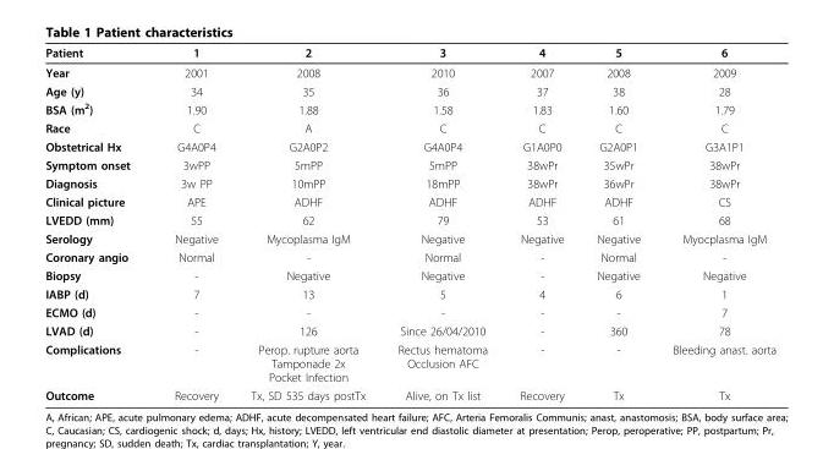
<table><thead><tr><td>Patient</td><td>1</td><td>2</td><td>3</td><td>4</td><td>5</td><td>6</td></tr></thead><tbody><tr><td>Year</td><td>2001</td><td>2008</td><td>2010</td><td>2007</td><td>2008</td><td>2009</td></tr><tr><td>Age (y)</td><td>34</td><td>35</td><td>36</td><td>37</td><td>38</td><td>28</td></tr><tr><td>BSA (m<sup>2</sup>)</td><td>1.90</td><td>1.88</td><td>1.58</td><td>1.83</td><td>1.60</td><td>1.79</td></tr><tr><td>Race</td><td>C</td><td>A</td><td>C</td><td>C</td><td>C</td><td>C</td></tr><tr><td>Obstetrical Hx</td><td>G4A0P4</td><td>G2A0P2</td><td>G4A0P4</td><td>G1A0P0</td><td>G2A0P1</td><td>G3A1P1</td></tr><tr><td>Symptom onset</td><td>3wPP</td><td>5mPP</td><td>5mPP</td><td>38wPr</td><td>35wPr</td><td>38wPr</td></tr><tr><td>Diagnosis</td><td>3w PP</td><td>10mPP</td><td>18mPP</td><td>38wPr</td><td>36wPr</td><td>38wPr</td></tr><tr><td>Clinical picture</td><td>APE</td><td>ADHF</td><td>ADHF</td><td>ADHF</td><td>ADHF</td><td>CS</td></tr><tr><td>LVEDD (mm)</td><td>55</td><td>62</td><td>79</td><td>53</td><td>61</td><td>68</td></tr><tr><td>Serology</td><td>Negative</td><td>Mycoplasma IgM</td><td>Negative</td><td>Negative</td><td>Negative</td><td>Myocplasma IgM</td></tr><tr><td>Coronary angio</td><td>Normal</td><td>-</td><td>Normal</td><td>-</td><td>Normal</td><td>-</td></tr><tr><td>Biopsy</td><td>-</td><td>Negative</td><td>Negative</td><td>-</td><td>Negative</td><td>Negative</td></tr><tr><td>IABP (d)</td><td>7</td><td>13</td><td>5</td><td>4</td><td>6</td><td>1</td></tr><tr><td>ECMO (d)</td><td>-</td><td>-</td><td>-</td><td>-</td><td>-</td><td>7</td></tr><tr><td>LVAD (d)</td><td>-</td><td>126</td><td>Since 26/04/2010</td><td>-</td><td>360</td><td>78</td></tr><tr><td>Complications</td><td>-</td><td>Perop. rupture aorta Tamponade 2x Pocket Infection</td><td>Rectus hematoma Occlusion AFC</td><td>-</td><td>-</td><td>Bleeding anast. aorta</td></tr><tr><td>Outcome</td><td>Recovery</td><td>Tx, SD 535 days postTx</td><td>Alive, on Tx list</td><td>Recovery</td><td>Tx</td><td>Tx</td></tr></tbody></table>